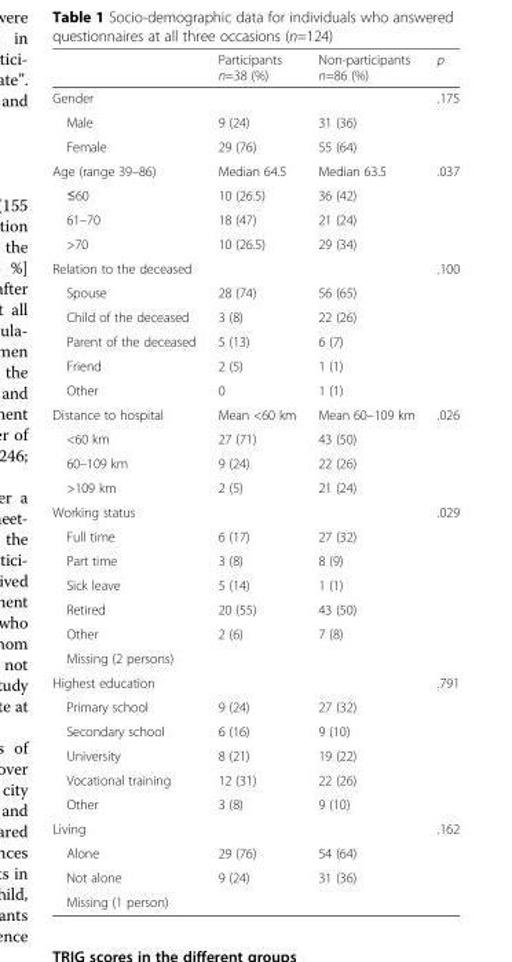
<table><thead><tr><td></td><td>Participants n=38 (%)</td><td>Non-participants n=86 (%)</td><td>p</td></tr></thead><tbody><tr><td>Gender</td><td></td><td></td><td>.175</td></tr><tr><td>Male</td><td>9 (24)</td><td>31 (36)</td><td></td></tr><tr><td>Female</td><td>29 (76)</td><td>55 (64)</td><td></td></tr><tr><td>Age (range 39–86)</td><td>Median 64.5</td><td>Median 63.5</td><td>.037</td></tr><tr><td>≤60</td><td>10 (26.5)</td><td>36 (42)</td><td></td></tr><tr><td>61–70</td><td>18 (47)</td><td>21 (24)</td><td></td></tr><tr><td>&gt;70</td><td>10 (26.5)</td><td>29 (34)</td><td></td></tr><tr><td colspan="3">Relation to the deceased</td><td>.100</td></tr><tr><td>Spouse</td><td>28 (74)</td><td>56 (65)</td><td></td></tr><tr><td>Child of the deceased</td><td>3 (8)</td><td>22 (26)</td><td></td></tr><tr><td>Parent of the deceased</td><td>5 (13)</td><td>6 (7)</td><td></td></tr><tr><td>Friend</td><td>2 (5)</td><td>1 (1)</td><td></td></tr><tr><td>Other</td><td>0</td><td>1 (1)</td><td></td></tr><tr><td>Distance to hospital</td><td>Mean &lt;60 km</td><td>Mean 60–109 km</td><td>.026</td></tr><tr><td>&lt;60 km</td><td>27 (71)</td><td>43 (50)</td><td></td></tr><tr><td>60–109 km</td><td>9 (24)</td><td>22 (26)</td><td></td></tr><tr><td>&gt;109 km</td><td>2 (5)</td><td>21 (24)</td><td></td></tr><tr><td>Working status</td><td></td><td></td><td>.029</td></tr><tr><td>Full time</td><td>6 (17)</td><td>27 (32)</td><td></td></tr><tr><td>Part time</td><td>3 (8)</td><td>8 (9)</td><td></td></tr><tr><td>Sick leave</td><td>5 (14)</td><td>1 (1)</td><td></td></tr><tr><td>Retired</td><td>20 (55)</td><td>43 (50)</td><td></td></tr><tr><td>Other</td><td>2 (6)</td><td>7 (8)</td><td></td></tr><tr><td colspan="4">Missing (2 persons)</td></tr><tr><td>Highest education</td><td></td><td></td><td>.791</td></tr><tr><td>Primary school</td><td>9 (24)</td><td>27 (32)</td><td></td></tr><tr><td>Secondary school</td><td>6 (16)</td><td>9 (10)</td><td></td></tr><tr><td>University</td><td>8 (21)</td><td>19 (22)</td><td></td></tr><tr><td>Vocational training</td><td>12 (31)</td><td>22 (26)</td><td></td></tr><tr><td>Other</td><td>3 (8)</td><td>9 (10)</td><td></td></tr><tr><td>Living</td><td></td><td></td><td>.162</td></tr><tr><td>Alone</td><td>29 (76)</td><td>54 (64)</td><td></td></tr><tr><td>Not alone</td><td>9 (24)</td><td>31 (36)</td><td></td></tr><tr><td>Missing (1 person)</td><td></td><td></td><td></td></tr></tbody></table>